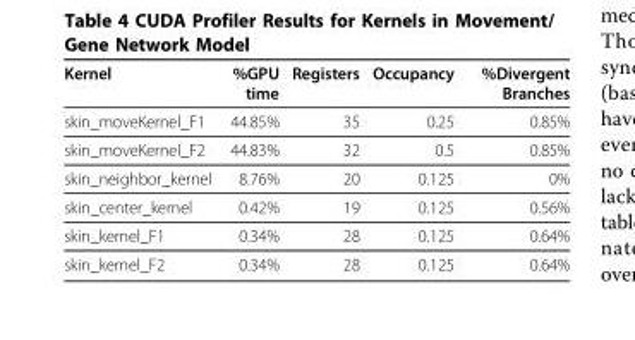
<table><thead><tr><td>Kernel</td><td>%GPU time</td><td>Registers</td><td>Occupancy</td><td>%Divergent Branches</td></tr></thead><tbody><tr><td>skin_moveKernel_F1</td><td>44.85%</td><td>35</td><td>0.25</td><td>0.85%</td></tr><tr><td>skin_moveKernel_F2</td><td>44.83%</td><td>32</td><td>0.5</td><td>0.85%</td></tr><tr><td>skin_neighbor_kernel</td><td>8.76%</td><td>20</td><td>0.125</td><td>0%</td></tr><tr><td>skin_center_kernel</td><td>0.42%</td><td>19</td><td>0.125</td><td>0.56%</td></tr><tr><td>skin_kernel_F1</td><td>0.34%</td><td>28</td><td>0.125</td><td>0.64%</td></tr><tr><td>skin_kernel_F2</td><td>0.34%</td><td>28</td><td>0.125</td><td>0.64%</td></tr></tbody></table>